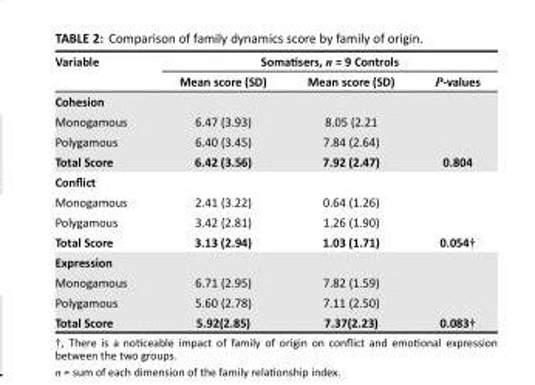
<table><thead><tr><td rowspan="2">Variable</td><td colspan="3">Somatisers, n = 9 Controls</td></tr><tr><td>Mean score (SD)</td><td>Mean score (SD)</td><td>P-values</td></tr></thead><tbody><tr><td colspan="4">Cohesion</td></tr><tr><td>Monogamous</td><td>6.47 (3.93)</td><td>8.05 (2.21</td><td></td></tr><tr><td>Polygamous</td><td>6.40 (3.45)</td><td>7.84 (2.64)</td><td></td></tr><tr><td>Total Score</td><td>6.42 (3.56)</td><td>7.92 (2.47)</td><td>0.804</td></tr><tr><td colspan="4">Conflict</td></tr><tr><td>Monogamous</td><td>2.41 (3.22)</td><td>0.64 (1.26)</td><td></td></tr><tr><td>Polygamous</td><td>3.42 (2.81)</td><td>1.26 (1.90)</td><td></td></tr><tr><td>Total Score</td><td>3.13 (2.94)</td><td>1.03 (1.71)</td><td>0.054†</td></tr><tr><td colspan="4">Expression</td></tr><tr><td>Monogamous</td><td>6.71 (2.95)</td><td>7.82 (1.59)</td><td></td></tr><tr><td>Polygamous</td><td>5.60 (2.78)</td><td>7.11 (2.50)</td><td></td></tr><tr><td>Total Score</td><td>5.92(2.85)</td><td>7.37(2.23)</td><td>0.083†</td></tr></tbody></table>